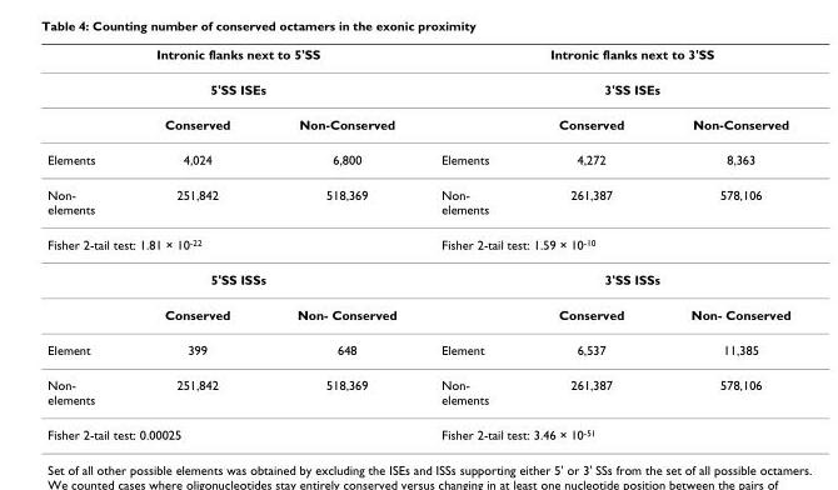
<table><thead><tr><td rowspan="2" colspan="3">Intronic flanks next to 5&#x27;SS 5&#x27;SS ISEs</td><td rowspan="2" colspan="3">Intronic flanks next to 3&#x27;SS 3&#x27;SS ISEs</td></tr><tr></tr><tr><td></td><td>Conserved</td><td>Non-Conserved</td><td></td><td>Conserved</td><td>Non-Conserved</td></tr></thead><tbody><tr><td>Elements</td><td>4,024</td><td>6,800</td><td>Elements</td><td>4,272</td><td>8,363</td></tr><tr><td>Non- elements</td><td>251,842</td><td>518,369</td><td>Non- elements</td><td>261,387</td><td>578,106</td></tr><tr><td colspan="3">Fisher 2-tail test: 1.81 × 10<sup>-22</sup></td><td colspan="3">Fisher 2-tail test: 1.59 × 10<sup>-10</sup></td></tr><tr><td colspan="3">5&#x27;SS ISSs</td><td colspan="3">3&#x27;SS ISSs</td></tr><tr><td></td><td>Conserved</td><td>Non- Conserved</td><td></td><td>Conserved</td><td>Non- Conserved</td></tr><tr><td>Element</td><td>399</td><td>648</td><td>Element</td><td>6,537</td><td>11,385</td></tr><tr><td>Non- elements</td><td>251,842</td><td>518,369</td><td>Non- elements</td><td>261,387</td><td>578,106</td></tr><tr><td colspan="3">Fisher 2-tail test: 0.00025</td><td colspan="3">Fisher 2-tail test: 3.46 × 10<sup>-51</sup></td></tr></tbody></table>